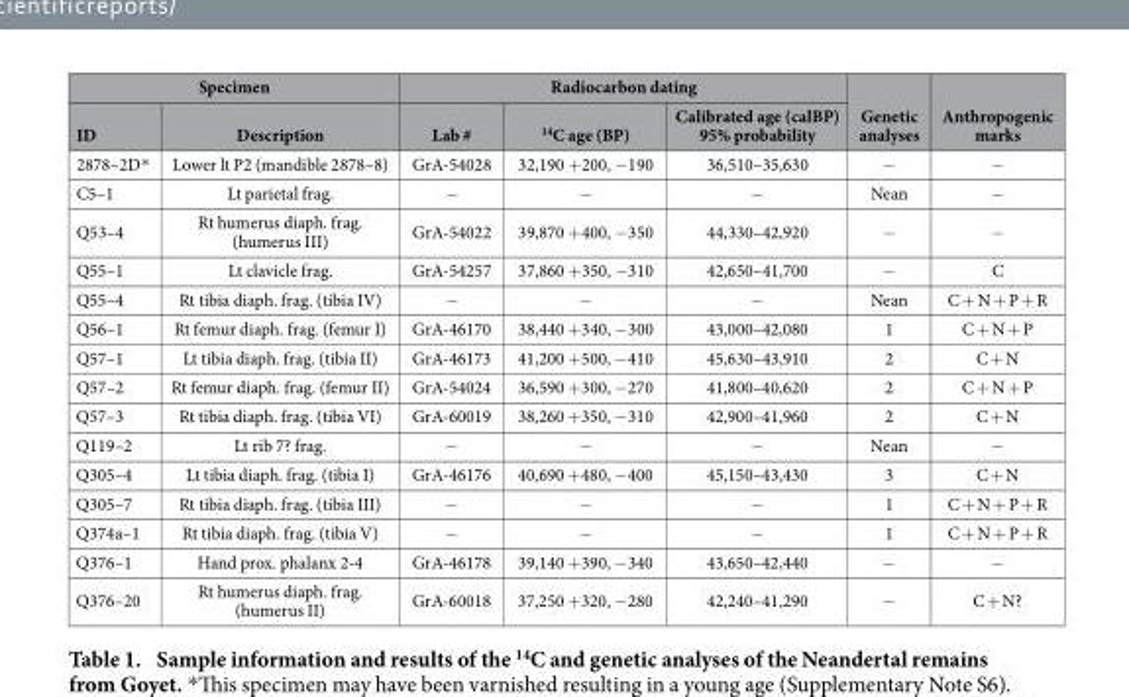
<table><thead><tr><td colspan="2">Specimen</td><td colspan="3">Radiocarbon dating</td><td rowspan="2">Genetic analyses</td><td rowspan="2">Anthropogenic marks</td></tr><tr><td>ID</td><td>Description</td><td>Lab #</td><td><sup>14</sup>C age (BP)</td><td>Calibrated age (calBP) 95% probability</td></tr></thead><tbody><tr><td>2878–2D*</td><td>Lower lt P2 (mandible 2878–8)</td><td>GrA-54028</td><td>32,190 + 200, − 190</td><td>36,510–35,630</td><td>−</td><td>−</td></tr><tr><td>C5–1</td><td>Lt parietal frag.</td><td>−</td><td>−</td><td>−</td><td>Nean</td><td>−</td></tr><tr><td>Q53–4</td><td>Rt humerus diaph. frag. (humerus III)</td><td>GrA-54022</td><td>39,870 + 400, − 350</td><td>44,330–42,920</td><td>−</td><td>−</td></tr><tr><td>Q55–1</td><td>Lt clavicle frag.</td><td>GrA-54257</td><td>37,860 + 350, − 310</td><td>42,650–41,700</td><td>−</td><td>C</td></tr><tr><td>Q55–4</td><td>Rt tibia diaph. frag. (tibia IV)</td><td>−</td><td>−</td><td>−</td><td>Nean</td><td>C + N + P + R</td></tr><tr><td>Q56–1</td><td>Rt femur diaph. frag. (femur I)</td><td>GrA-46170</td><td>38,440 + 340, − 300</td><td>43,000–42,080</td><td>1</td><td>C + N + P</td></tr><tr><td>Q57–1</td><td>Lt tibia diaph. frag. (tibia II)</td><td>GrA-46173</td><td>41,200 + 500, − 410</td><td>45,630–43,910</td><td>2</td><td>C + N</td></tr><tr><td>Q57–2</td><td>Rt femur diaph. frag. (femur II)</td><td>GrA-54024</td><td>36,590 + 300, − 270</td><td>41,800–40,620</td><td>2</td><td>C + N + P</td></tr><tr><td>Q57–3</td><td>Rt tibia diaph. frag. (tibia VI)</td><td>GrA-60019</td><td>38,260 + 350, − 310</td><td>42,900–41,960</td><td>2</td><td>C + N</td></tr><tr><td>Q119–2</td><td>Lt rib 7? frag.</td><td>−</td><td>−</td><td>−</td><td>Nean</td><td>−</td></tr><tr><td>Q305–4</td><td>Lt tibia diaph. frag. (tibia I)</td><td>GrA-46176</td><td>40,690 + 480, − 400</td><td>45,150–43,430</td><td>3</td><td>C + N</td></tr><tr><td>Q305–7</td><td>Rt tibia diaph. frag. (tibia III)</td><td>−</td><td>−</td><td>−</td><td>1</td><td>C + N + P + R</td></tr><tr><td>Q374a–1</td><td>Rt tibia diaph. frag. (tibia V)</td><td>−</td><td>−</td><td>−</td><td>1</td><td>C + N + P + R</td></tr><tr><td>Q376–1</td><td>Hand prox. phalanx 2-4</td><td>GrA-46178</td><td>39,140 + 390, − 340</td><td>43,650–42,440</td><td>−</td><td>−</td></tr><tr><td>Q376–20</td><td>Rt humerus diaph. frag. (humerus II)</td><td>GrA-60018</td><td>37,250 + 320, − 280</td><td>42,240–41,290</td><td>−</td><td>C + N?</td></tr></tbody></table>